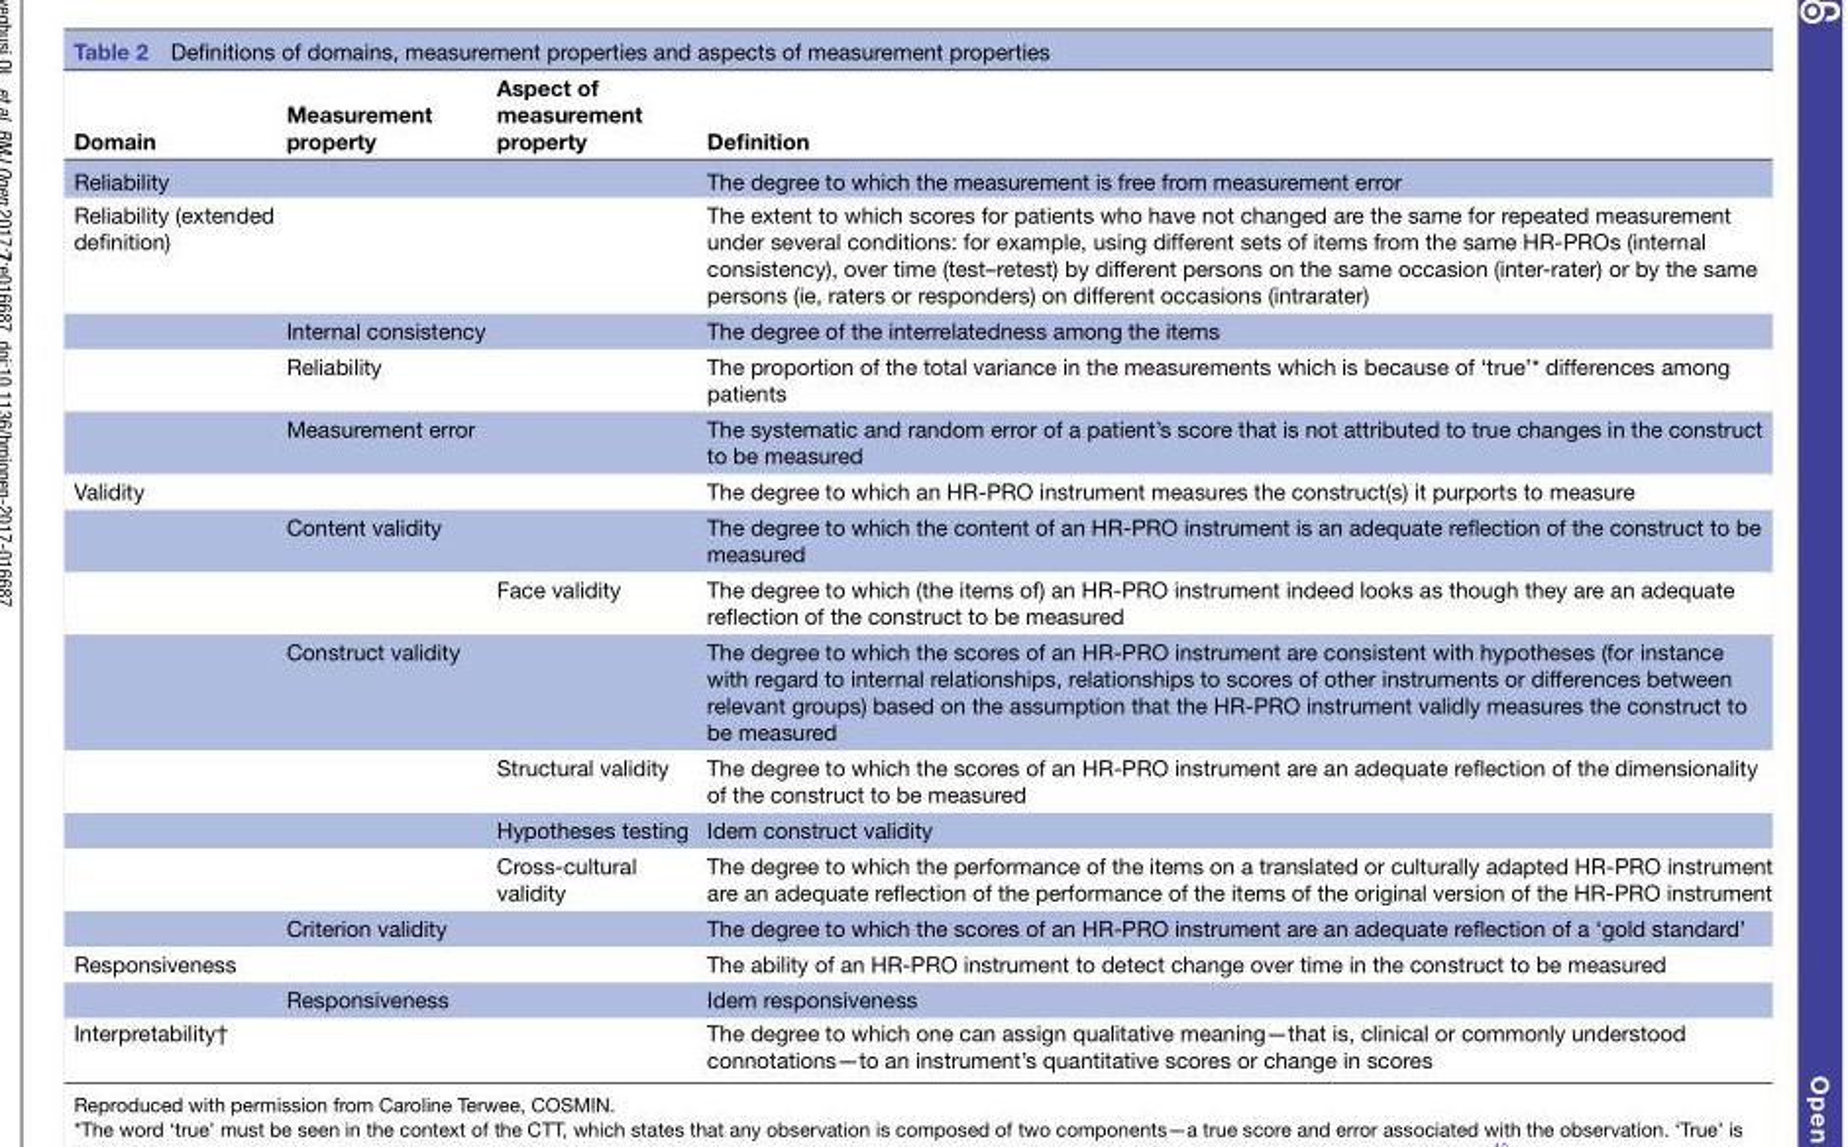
<table><thead><tr><td>Domain</td><td>Measurement property</td><td>Aspect of measurement property</td><td>Definition</td></tr></thead><tbody><tr><td>Reliability</td><td></td><td></td><td>The degree to which the measurement is free from measurement error</td></tr><tr><td rowspan="4">Reliability (extended definition)</td><td></td><td></td><td>The extent to which scores for patients who have not changed are the same for repeated measurement under several conditions: for example, using different sets of items from the same HR-PROs (internal consistency), over time (test–retest) by different persons on the same occasion (inter-rater) or by the same persons (ie, raters or responders) on different occasions (intrarater)</td></tr><tr><td>Internal consistency</td><td></td><td>The degree of the interrelatedness among the items</td></tr><tr><td>Reliability</td><td></td><td>The proportion of the total variance in the measurements which is because of ‘true’* differences among patients</td></tr><tr><td>Measurement error</td><td></td><td>The systematic and random error of a patient’s score that is not attributed to true changes in the construct to be measured</td></tr><tr><td rowspan="8">Validity</td><td></td><td></td><td>The degree to which an HR-PRO instrument measures the construct(s) it purports to measure</td></tr><tr><td>Content validity</td><td></td><td>The degree to which the content of an HR-PRO instrument is an adequate reflection of the construct to be measured</td></tr><tr><td></td><td>Face validity</td><td>The degree to which (the items of) an HR-PRO instrument indeed looks as though they are an adequate reflection of the construct to be measured</td></tr><tr><td>Construct validity</td><td></td><td>The degree to which the scores of an HR-PRO instrument are consistent with hypotheses (for instance with regard to internal relationships, relationships to scores of other instruments or differences between relevant groups) based on the assumption that the HR-PRO instrument validly measures the construct to be measured</td></tr><tr><td></td><td>Structural validity</td><td>The degree to which the scores of an HR-PRO instrument are an adequate reflection of the dimensionality of the construct to be measured</td></tr><tr><td></td><td>Hypotheses testing</td><td>Idem construct validity</td></tr><tr><td></td><td>Cross-cultural validity</td><td>The degree to which the performance of the items on a translated or culturally adapted HR-PRO instrument are an adequate reflection of the performance of the items of the original version of the HR-PRO instrument</td></tr><tr><td>Criterion validity</td><td></td><td>The degree to which the scores of an HR-PRO instrument are an adequate reflection of a ‘gold standard’</td></tr><tr><td rowspan="2">Responsiveness</td><td></td><td></td><td>The ability of an HR-PRO instrument to detect change over time in the construct to be measured</td></tr><tr><td>Responsiveness</td><td></td><td>Idem responsiveness</td></tr><tr><td>Interpretability†</td><td></td><td></td><td>The degree to which one can assign qualitative meaning—that is, clinical or commonly understood connotations—to an instrument’s quantitative scores or change in scores</td></tr></tbody></table>